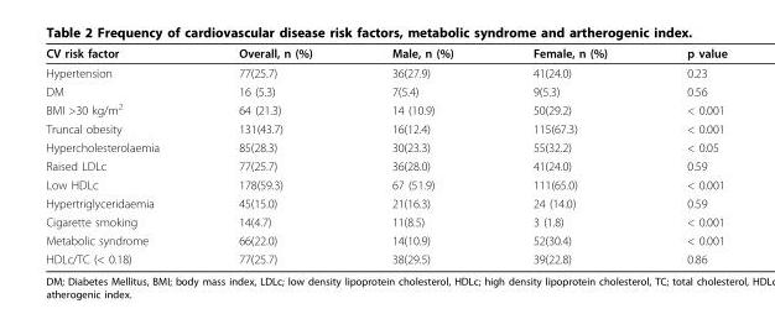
<table><thead><tr><td>CV risk factor</td><td>Overall, n (%)</td><td>Male, n (%)</td><td>Female, n (%)</td><td>p value</td></tr></thead><tbody><tr><td>Hypertension</td><td>77(25.7)</td><td>36(27.9)</td><td>41(24.0)</td><td>0.23</td></tr><tr><td>DM</td><td>16 (5.3)</td><td>7(5.4)</td><td>9(5.3)</td><td>0.56</td></tr><tr><td>BMI &gt;30 kg/m<sup>2</sup></td><td>64 (21.3)</td><td>14 (10.9)</td><td>50(29.2)</td><td>&lt; 0.001</td></tr><tr><td>Truncal obesity</td><td>131(43.7)</td><td>16(12.4)</td><td>115(67.3)</td><td>&lt; 0.001</td></tr><tr><td>Hypercholesterolaemia</td><td>85(28.3)</td><td>30(23.3)</td><td>55(32.2)</td><td>&lt; 0.05</td></tr><tr><td>Raised LDLc</td><td>77(25.7)</td><td>36(28.0)</td><td>41(24.0)</td><td>0.59</td></tr><tr><td>Low HDLc</td><td>178(59.3)</td><td>67 (51.9)</td><td>111(65.0)</td><td>&lt; 0.001</td></tr><tr><td>Hypertriglyceridaemia</td><td>45(15.0)</td><td>21(16.3)</td><td>24 (14.0)</td><td>0.59</td></tr><tr><td>Cigarette smoking</td><td>14(4.7)</td><td>11(8.5)</td><td>3 (1.8)</td><td>&lt; 0.001</td></tr><tr><td>Metabolic syndrome</td><td>66(22.0)</td><td>14(10.9)</td><td>52(30.4)</td><td>&lt; 0.001</td></tr><tr><td>HDLc/TC (&lt; 0.18)</td><td>77(25.7)</td><td>38(29.5)</td><td>39(22.8)</td><td>0.86</td></tr></tbody></table>